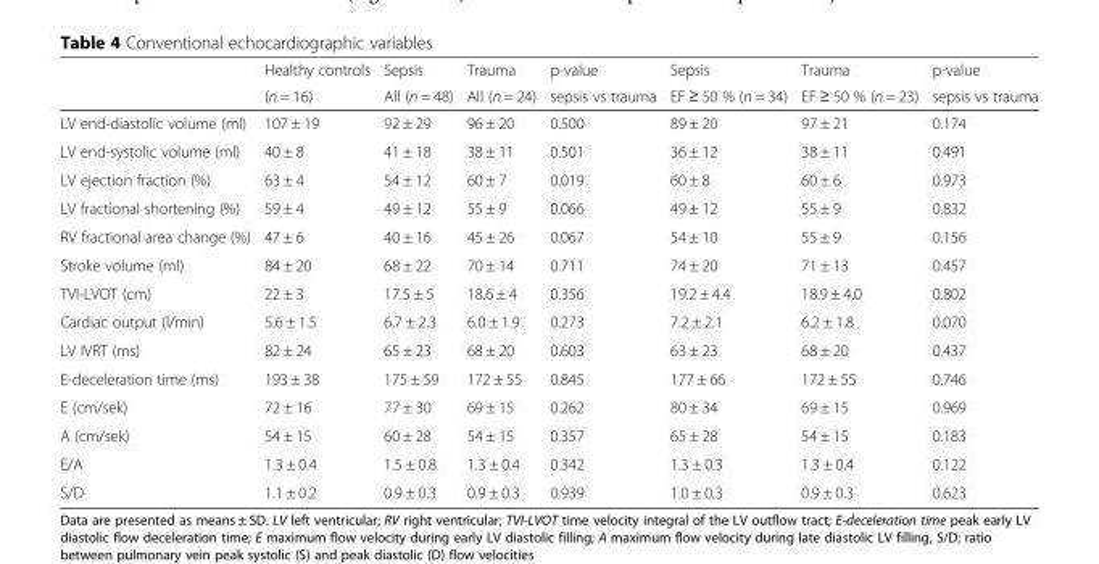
<table><thead><tr><td rowspan="2"></td><td rowspan="2">Healthy controls (n = 16)</td><td rowspan="2">Sepsis All (n = 48)</td><td rowspan="2">Trauma All (n = 24)</td><td rowspan="2">p-value sepsis vs trauma</td><td rowspan="2">Sepsis EF ≥ 50 % (n = 34)</td><td rowspan="2">Trauma EF ≥ 50 % (n = 23)</td><td rowspan="2">p-value sepsis vs trauma</td></tr><tr></tr></thead><tbody><tr><td>LV end-diastolic volume (ml)</td><td>107 ± 19</td><td>92 ± 29</td><td>96 ± 20</td><td>0.500</td><td>89 ± 20</td><td>97 ± 21</td><td>0.174</td></tr><tr><td>LV end-systolic volume (ml)</td><td>40 ± 8</td><td>41 ± 18</td><td>38 ± 11</td><td>0.501</td><td>36 ± 12</td><td>38 ± 11</td><td>0.491</td></tr><tr><td>LV ejection fraction (%)</td><td>63 ± 4</td><td>54 ± 12</td><td>60 ± 7</td><td>0.019</td><td>60 ± 8</td><td>60 ± 6</td><td>0.973</td></tr><tr><td>LV fractional shortening (%)</td><td>59 ± 4</td><td>49 ± 12</td><td>55 ± 9</td><td>0.066</td><td>49 ± 12</td><td>55 ± 9</td><td>0.832</td></tr><tr><td>RV fractional area change (%)</td><td>47 ± 6</td><td>40 ± 16</td><td>45 ± 26</td><td>0.067</td><td>54 ± 10</td><td>55 ± 9</td><td>0.156</td></tr><tr><td>Stroke volume (ml)</td><td>84 ± 20</td><td>68 ± 22</td><td>70 ± 14</td><td>0.711</td><td>74 ± 20</td><td>71 ± 13</td><td>0.457</td></tr><tr><td>TVI-LVOT (cm)</td><td>22 ± 3</td><td>17.5 ± 5</td><td>18.6 ± 4</td><td>0.356</td><td>19.2 ± 4.4</td><td>18.9 ± 4.0</td><td>0.802</td></tr><tr><td>Cardiac output (l/min)</td><td>5.6 ± 1.5</td><td>6.7 ± 2.3</td><td>6.0 ± 1.9</td><td>0.273</td><td>7.2 ± 2.1</td><td>6.2 ± 1.8</td><td>0.070</td></tr><tr><td>LV IVRT (ms)</td><td>82 ± 24</td><td>65 ± 23</td><td>68 ± 20</td><td>0.603</td><td>63 ± 23</td><td>68 ± 20</td><td>0.437</td></tr><tr><td>E-deceleration time (ms)</td><td>193 ± 38</td><td>175 ± 59</td><td>172 ± 55</td><td>0.845</td><td>177 ± 66</td><td>172 ± 55</td><td>0.746</td></tr><tr><td>E (cm/sek)</td><td>72 ± 16</td><td>77 ± 30</td><td>69 ± 15</td><td>0.262</td><td>80 ± 34</td><td>69 ± 15</td><td>0.969</td></tr><tr><td>A (cm/sek)</td><td>54 ± 15</td><td>60 ± 28</td><td>54 ± 15</td><td>0.357</td><td>65 ± 28</td><td>54 ± 15</td><td>0.183</td></tr><tr><td>E/A</td><td>1.3 ± 0.4</td><td>1.5 ± 0.8</td><td>1.3 ± 0.4</td><td>0.342</td><td>1.3 ± 0.3</td><td>1.3 ± 0.4</td><td>0.122</td></tr><tr><td>S/D</td><td>1.1 ± 0.2</td><td>0.9 ± 0.3</td><td>0.9 ± 0.3</td><td>0.939</td><td>1.0 ± 0.3</td><td>0.9 ± 0.3</td><td>0.623</td></tr></tbody></table>